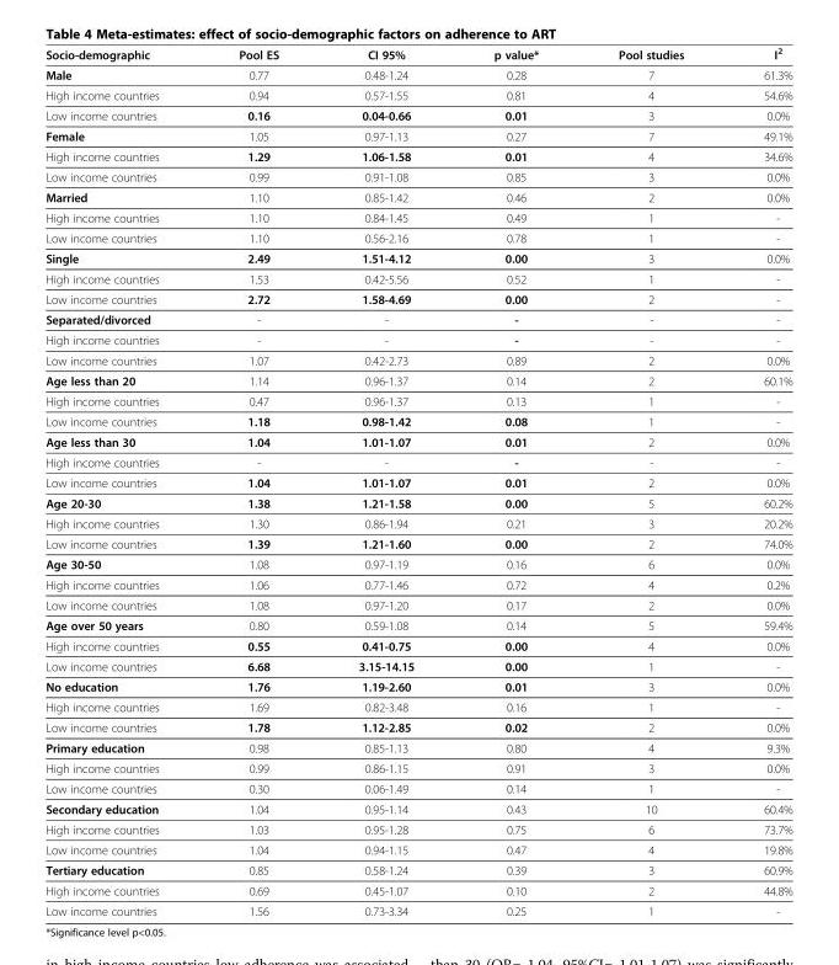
<table><thead><tr><td>Socio-demographic</td><td>Pool ES</td><td>CI 95%</td><td>p value*</td><td>Pool studies</td><td>I<sup>2</sup></td></tr></thead><tbody><tr><td>Male</td><td>0.77</td><td>0.48-1.24</td><td>0.28</td><td>7</td><td>61.3%</td></tr><tr><td>High income countries</td><td>0.94</td><td>0.57-1.55</td><td>0.81</td><td>4</td><td>54.6%</td></tr><tr><td>Low income countries</td><td>0.16</td><td>0.04-0.66</td><td>0.01</td><td>3</td><td>0.0%</td></tr><tr><td>Female</td><td>1.05</td><td>0.97-1.13</td><td>0.27</td><td>7</td><td>49.1%</td></tr><tr><td>High income countries</td><td>1.29</td><td>1.06-1.58</td><td>0.01</td><td>4</td><td>34.6%</td></tr><tr><td>Low income countries</td><td>0.99</td><td>0.91-1.08</td><td>0.85</td><td>3</td><td>0.0%</td></tr><tr><td>Married</td><td>1.10</td><td>0.85-1.42</td><td>0.46</td><td>2</td><td>0.0%</td></tr><tr><td>High income countries</td><td>1.10</td><td>0.84-1.45</td><td>0.49</td><td>1</td><td>-</td></tr><tr><td>Low income countries</td><td>1.10</td><td>0.56-2.16</td><td>0.78</td><td>1</td><td>-</td></tr><tr><td>Single</td><td>2.49</td><td>1.51-4.12</td><td>0.00</td><td>3</td><td>0.0%</td></tr><tr><td>High income countries</td><td>1.53</td><td>0.42-5.56</td><td>0.52</td><td>1</td><td>-</td></tr><tr><td>Low income countries</td><td>2.72</td><td>1.58-4.69</td><td>0.00</td><td>2</td><td>-</td></tr><tr><td>Separated/divorced</td><td>-</td><td>-</td><td>-</td><td>-</td><td>-</td></tr><tr><td>High income countries</td><td>-</td><td>-</td><td>-</td><td>-</td><td>-</td></tr><tr><td>Low income countries</td><td>1.07</td><td>0.42-2.73</td><td>0.89</td><td>2</td><td>0.0%</td></tr><tr><td>Age less than 20</td><td>1.14</td><td>0.96-1.37</td><td>0.14</td><td>2</td><td>60.1%</td></tr><tr><td>High income countries</td><td>0.47</td><td>0.96-1.37</td><td>0.13</td><td>1</td><td>-</td></tr><tr><td>Low income countries</td><td>1.18</td><td>0.98-1.42</td><td>0.08</td><td>1</td><td>-</td></tr><tr><td>Age less than 30</td><td>1.04</td><td>1.01-1.07</td><td>0.01</td><td>2</td><td>0.0%</td></tr><tr><td>High income countries</td><td>-</td><td>-</td><td>-</td><td>-</td><td>-</td></tr><tr><td>Low income countries</td><td>1.04</td><td>1.01-1.07</td><td>0.01</td><td>2</td><td>0.0%</td></tr><tr><td>Age 20-30</td><td>1.38</td><td>1.21-1.58</td><td>0.00</td><td>5</td><td>60.2%</td></tr><tr><td>High income countries</td><td>1.30</td><td>0.86-1.94</td><td>0.21</td><td>3</td><td>20.2%</td></tr><tr><td>Low income countries</td><td>1.39</td><td>1.21-1.60</td><td>0.00</td><td>2</td><td>74.0%</td></tr><tr><td>Age 30-50</td><td>1.08</td><td>0.97-1.19</td><td>0.16</td><td>6</td><td>0.0%</td></tr><tr><td>High income countries</td><td>1.06</td><td>0.77-1.46</td><td>0.72</td><td>4</td><td>0.2%</td></tr><tr><td>Low income countries</td><td>1.08</td><td>0.97-1.20</td><td>0.17</td><td>2</td><td>0.0%</td></tr><tr><td>Age over 50 years</td><td>0.80</td><td>0.59-1.08</td><td>0.14</td><td>5</td><td>59.4%</td></tr><tr><td>High income countries</td><td>0.55</td><td>0.41-0.75</td><td>0.00</td><td>4</td><td>0.0%</td></tr><tr><td>Low income countries</td><td>6.68</td><td>3.15-14.15</td><td>0.00</td><td>1</td><td>-</td></tr><tr><td>No education</td><td>1.76</td><td>1.19-2.60</td><td>0.01</td><td>3</td><td>0.0%</td></tr><tr><td>High income countries</td><td>1.69</td><td>0.82-3.48</td><td>0.16</td><td>1</td><td>-</td></tr><tr><td>Low income countries</td><td>1.78</td><td>1.12-2.85</td><td>0.02</td><td>2</td><td>0.0%</td></tr><tr><td>Primary education</td><td>0.98</td><td>0.85-1.13</td><td>0.80</td><td>4</td><td>9.3%</td></tr><tr><td>High income countries</td><td>0.99</td><td>0.86-1.15</td><td>0.91</td><td>3</td><td>0.0%</td></tr><tr><td>Low income countries</td><td>0.30</td><td>0.06-1.49</td><td>0.14</td><td>1</td><td>-</td></tr><tr><td>Secondary education</td><td>1.04</td><td>0.95-1.14</td><td>0.43</td><td>10</td><td>60.4%</td></tr><tr><td>High income countries</td><td>1.03</td><td>0.95-1.28</td><td>0.75</td><td>6</td><td>73.7%</td></tr><tr><td>Low income countries</td><td>1.04</td><td>0.94-1.15</td><td>0.47</td><td>4</td><td>19.8%</td></tr><tr><td>Tertiary education</td><td>0.85</td><td>0.58-1.24</td><td>0.39</td><td>3</td><td>60.9%</td></tr><tr><td>High income countries</td><td>0.69</td><td>0.45-1.07</td><td>0.10</td><td>2</td><td>44.8%</td></tr><tr><td>Low income countries</td><td>1.56</td><td>0.73-3.34</td><td>0.25</td><td>1</td><td>-</td></tr></tbody></table>